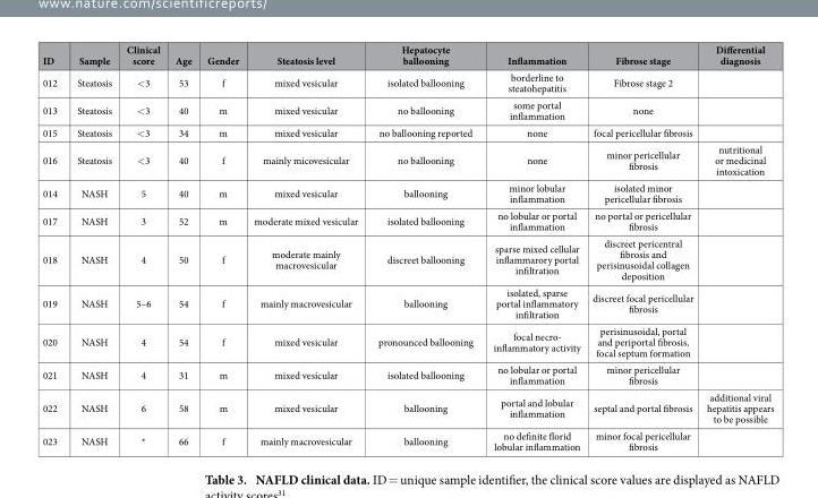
<table><thead><tr><td>ID</td><td>Sample</td><td>Clinical score</td><td>Age</td><td>Gender</td><td>Steatosis level</td><td>Hepatocyte ballooning</td><td>Inflammation</td><td>Fibrose stage</td><td>Differential diagnosis</td></tr></thead><tbody><tr><td>012</td><td>Steatosis</td><td>&lt; 3</td><td>53</td><td>f</td><td>mixed vesicular</td><td>isolated ballooning</td><td>borderline to steatohepatitis</td><td>Fibrose stage 2</td><td></td></tr><tr><td>013</td><td>Steatosis</td><td>&lt; 3</td><td>40</td><td>m</td><td>mixed vesicular</td><td>no ballooning</td><td>some portal inflammation</td><td>none</td><td></td></tr><tr><td>015</td><td>Steatosis</td><td>&lt; 3</td><td>34</td><td>m</td><td>mixed vesicular</td><td>no ballooning reported</td><td>none</td><td>focal pericellular fibrosis</td><td></td></tr><tr><td>016</td><td>Steatosis</td><td>&lt; 3</td><td>40</td><td>f</td><td>mainly micovesicular</td><td>no ballooning</td><td>none</td><td>minor pericellular fibrosis</td><td>nutritional or medicinal intoxication</td></tr><tr><td>014</td><td>NASH</td><td>5</td><td>40</td><td>m</td><td>mixed vesicular</td><td>ballooning</td><td>minor lobular inflammation</td><td>isolated minor pericellular fibrosis</td><td></td></tr><tr><td>017</td><td>NASH</td><td>3</td><td>52</td><td>m</td><td>moderate mixed vesicular</td><td>isolated ballooning</td><td>no lobular or portal inflammation</td><td>no portal or pericellular fibrosis</td><td></td></tr><tr><td>018</td><td>NASH</td><td>4</td><td>50</td><td>f</td><td>moderate mainly macrovesicular</td><td>discreet ballooning</td><td>sparse mixed cellular inflammarory portal infiltration</td><td>discreet pericentral fibrosis and perisinusoidal collagen deposition</td><td></td></tr><tr><td>019</td><td>NASH</td><td>5–6</td><td>54</td><td>f</td><td>mainly macrovesicular</td><td>ballooning</td><td>isolated, sparse portal inflammatory infiltration</td><td>discreet focal pericellular fibrosis</td><td></td></tr><tr><td>020</td><td>NASH</td><td>4</td><td>54</td><td>f</td><td>mixed vesicular</td><td>pronounced ballooning</td><td>focal necro- inflammatory activity</td><td>perisinusoidal, portal and periportal fibrosis, focal septum formation</td><td></td></tr><tr><td>021</td><td>NASH</td><td>4</td><td>31</td><td>m</td><td>mixed vesicular</td><td>isolated ballooning</td><td>no lobular or portal inflammation</td><td>minor pericellular fibrosis</td><td></td></tr><tr><td>022</td><td>NASH</td><td>6</td><td>58</td><td>m</td><td>mixed vesicular</td><td>ballooning</td><td>portal and lobular inflammation</td><td>septal and portal fibrosis</td><td>additional viral hepatitis appears to be possible</td></tr><tr><td>023</td><td>NASH</td><td>*</td><td>66</td><td>f</td><td>mainly macrovesicular</td><td>ballooning</td><td>no definite florid lobular inflammation</td><td>minor focal pericellular fibrosis</td><td></td></tr></tbody></table>